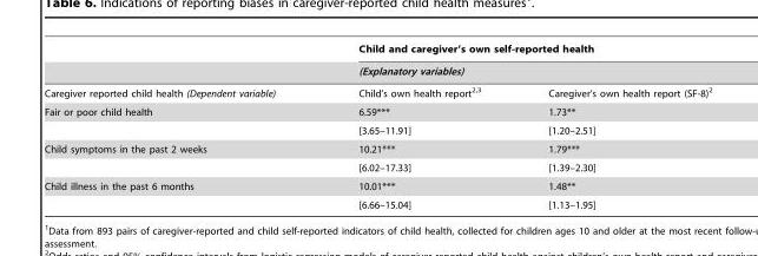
<table><thead><tr><td rowspan="3">Caregiver reported child health (Dependent variable)</td><td rowspan="2" colspan="2">Child and caregiver’s own self-reported health (Explanatory variables)</td></tr><tr></tr><tr><td>Child’s own health report<sup>2,3</sup></td><td>Caregiver’s own health report (SF-8)<sup>2</sup></td></tr></thead><tbody><tr><td rowspan="2">Fair or poor child health</td><td>6.59***</td><td>1.73**</td></tr><tr><td>[3.65–11.91]</td><td>[1.20–2.51]</td></tr><tr><td rowspan="2">Child symptoms in the past 2 weeks</td><td>10.21***</td><td>1.79***</td></tr><tr><td>[6.02–17.33]</td><td>[1.39–2.30]</td></tr><tr><td rowspan="2">Child illness in the past 6 months</td><td>10.01***</td><td>1.48**</td></tr><tr><td>[6.66–15.04]</td><td>[1.13–1.95]</td></tr></tbody></table>